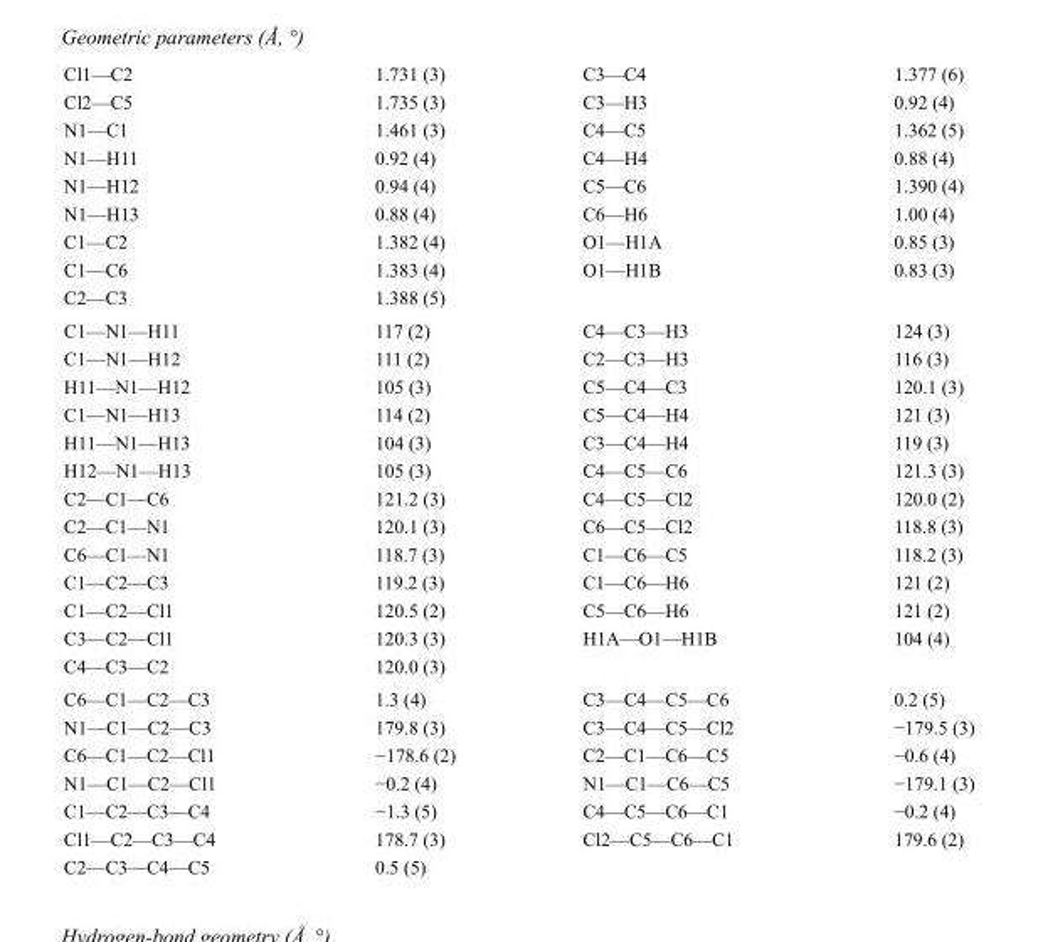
<table><tbody><tr><td>Cl1—C2</td><td>1.731 (3)</td><td>C3—C4</td><td>1.377 (6)</td></tr><tr><td>Cl2—C5</td><td>1.735 (3)</td><td>C3—H3</td><td>0.92 (4)</td></tr><tr><td>N1—C1</td><td>1.461 (3)</td><td>C4—C5</td><td>1.362 (5)</td></tr><tr><td>N1—H11</td><td>0.92 (4)</td><td>C4—H4</td><td>0.88 (4)</td></tr><tr><td>N1—H12</td><td>0.94 (4)</td><td>C5—C6</td><td>1.390 (4)</td></tr><tr><td>N1—H13</td><td>0.88 (4)</td><td>C6—H6</td><td>1.00 (4)</td></tr><tr><td>C1—C2</td><td>1.382 (4)</td><td>O1—H1A</td><td>0.85 (3)</td></tr><tr><td>C1—C6</td><td>1.383 (4)</td><td>O1—H1B</td><td>0.83 (3)</td></tr><tr><td>C2—C3</td><td>1.388 (5)</td><td></td><td></td></tr><tr><td>C1—N1—H11</td><td>117 (2)</td><td>C4—C3—H3</td><td>124 (3)</td></tr><tr><td>C1—N1—H12</td><td>111 (2)</td><td>C2—C3—H3</td><td>116 (3)</td></tr><tr><td>H11—N1—H12</td><td>105 (3)</td><td>C5—C4—C3</td><td>120.1 (3)</td></tr><tr><td>C1—N1—H13</td><td>114 (2)</td><td>C5—C4—H4</td><td>121 (3)</td></tr><tr><td>H11—N1—H13</td><td>104 (3)</td><td>C3—C4—H4</td><td>119 (3)</td></tr><tr><td>H12—N1—H13</td><td>105 (3)</td><td>C4—C5—C6</td><td>121.3 (3)</td></tr><tr><td>C2—C1—C6</td><td>121.2 (3)</td><td>C4—C5—Cl2</td><td>120.0 (2)</td></tr><tr><td>C2—C1—N1</td><td>120.1 (3)</td><td>C6—C5—Cl2</td><td>118.8 (3)</td></tr><tr><td>C6—C1—N1</td><td>118.7 (3)</td><td>C1—C6—C5</td><td>118.2 (3)</td></tr><tr><td>C1—C2—C3</td><td>119.2 (3)</td><td>C1—C6—H6</td><td>121 (2)</td></tr><tr><td>C1—C2—Cl1</td><td>120.5 (2)</td><td>C5—C6—H6</td><td>121 (2)</td></tr><tr><td>C3—C2—Cl1</td><td>120.3 (3)</td><td>H1A—O1—H1B</td><td>104 (4)</td></tr><tr><td>C4—C3—C2</td><td>120.0 (3)</td><td></td><td></td></tr><tr><td>C6—C1—C2—C3</td><td>1.3 (4)</td><td>C3—C4—C5—C6</td><td>0.2 (5)</td></tr><tr><td>N1—C1—C2—C3</td><td>179.8 (3)</td><td>C3—C4—C5—Cl2</td><td>−179.5 (3)</td></tr><tr><td>C6—C1—C2—Cl1</td><td>−178.6 (2)</td><td>C2—C1—C6—C5</td><td>−0.6 (4)</td></tr><tr><td>N1—C1—C2—Cl1</td><td>−0.2 (4)</td><td>N1—C1—C6—C5</td><td>−179.1 (3)</td></tr><tr><td>C1—C2—C3—C4</td><td>−1.3 (5)</td><td>C4—C5—C6—C1</td><td>−0.2 (4)</td></tr><tr><td>Cl1—C2—C3—C4</td><td>178.7 (3)</td><td>Cl2—C5—C6—C1</td><td>179.6 (2)</td></tr><tr><td>C2—C3—C4—C5</td><td>0.5 (5)</td><td></td><td></td></tr></tbody></table>